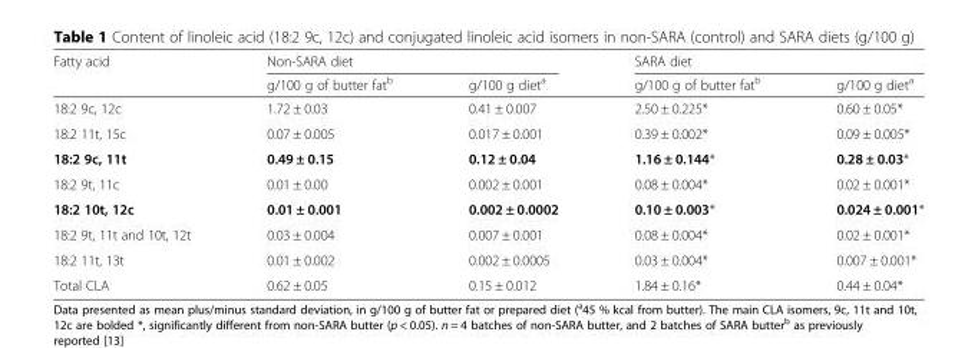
<table><thead><tr><td rowspan="2">Fatty acid</td><td colspan="2">Non-SARA diet</td><td colspan="2">SARA diet</td></tr><tr><td>g/100 g of butter fat<sup>b</sup></td><td>g/100 g diet<sup>a</sup></td><td>g/100 g of butter fat<sup>b</sup></td><td>g/100 g diet<sup>a</sup></td></tr></thead><tbody><tr><td>18:2 9c, 12c</td><td>1.72 ± 0.03</td><td>0.41 ± 0.007</td><td>2.50 ± 0.225*</td><td>0.60 ± 0.05*</td></tr><tr><td>18:2 11t, 15c</td><td>0.07 ± 0.005</td><td>0.017 ± 0.001</td><td>0.39 ± 0.002*</td><td>0.09 ± 0.005*</td></tr><tr><td>18:2 9c, 11t</td><td>0.49 ± 0.15</td><td>0.12 ± 0.04</td><td>1.16 ± 0.144*</td><td>0.28 ± 0.03*</td></tr><tr><td>18:2 9t, 11c</td><td>0.01 ± 0.00</td><td>0.002 ± 0.001</td><td>0.08 ± 0.004*</td><td>0.02 ± 0.001*</td></tr><tr><td>18:2 10t, 12c</td><td>0.01 ± 0.001</td><td>0.002 ± 0.0002</td><td>0.10 ± 0.003*</td><td>0.024 ± 0.001*</td></tr><tr><td>18:2 9t, 11t and 10t, 12t</td><td>0.03 ± 0.004</td><td>0.007 ± 0.001</td><td>0.08 ± 0.004*</td><td>0.02 ± 0.001*</td></tr><tr><td>18:2 11t, 13t</td><td>0.01 ± 0.002</td><td>0.002 ± 0.0005</td><td>0.03 ± 0.004*</td><td>0.007 ± 0.001*</td></tr><tr><td>Total CLA</td><td>0.62 ± 0.05</td><td>0.15 ± 0.012</td><td>1.84 ± 0.16*</td><td>0.44 ± 0.04*</td></tr></tbody></table>